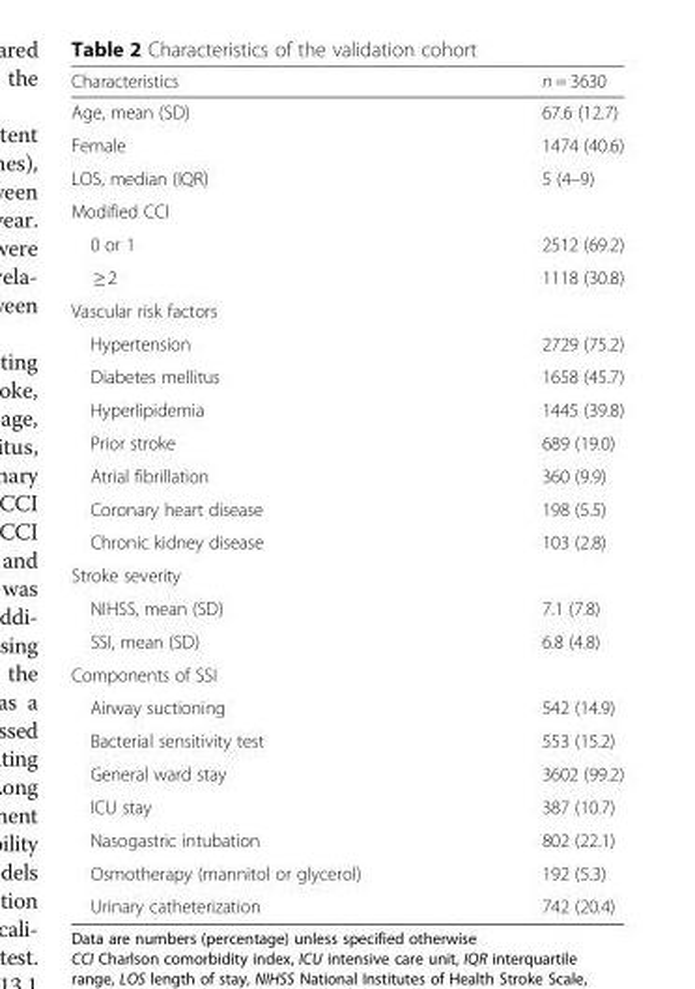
<table><thead><tr><td>Characteristics</td><td>n = 3630</td></tr></thead><tbody><tr><td>Age, mean (SD)</td><td>67.6 (12.7)</td></tr><tr><td>Female</td><td>1474 (40.6)</td></tr><tr><td>LOS, median (IQR)</td><td>5 (4–9)</td></tr><tr><td colspan="2">Modified CCI</td></tr><tr><td>0 or 1</td><td>2512 (69.2)</td></tr><tr><td>≥ 2</td><td>1118 (30.8)</td></tr><tr><td colspan="2">Vascular risk factors</td></tr><tr><td>Hypertension</td><td>2729 (75.2)</td></tr><tr><td>Diabetes mellitus</td><td>1658 (45.7)</td></tr><tr><td>Hyperlipidemia</td><td>1445 (39.8)</td></tr><tr><td>Prior stroke</td><td>689 (19.0)</td></tr><tr><td>Atrial fibrillation</td><td>360 (9.9)</td></tr><tr><td>Coronary heart disease</td><td>198 (5.5)</td></tr><tr><td>Chronic kidney disease</td><td>103 (2.8)</td></tr><tr><td colspan="2">Stroke severity</td></tr><tr><td>NIHSS, mean (SD)</td><td>7.1 (7.8)</td></tr><tr><td>SSI, mean (SD)</td><td>6.8 (4.8)</td></tr><tr><td colspan="2">Components of SSI</td></tr><tr><td>Airway suctioning</td><td>542 (14.9)</td></tr><tr><td>Bacterial sensitivity test</td><td>553 (15.2)</td></tr><tr><td>General ward stay</td><td>3602 (99.2)</td></tr><tr><td>ICU stay</td><td>387 (10.7)</td></tr><tr><td>Nasogastric intubation</td><td>802 (22.1)</td></tr><tr><td>Osmotherapy (mannitol or glycerol)</td><td>192 (5.3)</td></tr><tr><td>Urinary catheterization</td><td>742 (20.4)</td></tr></tbody></table>